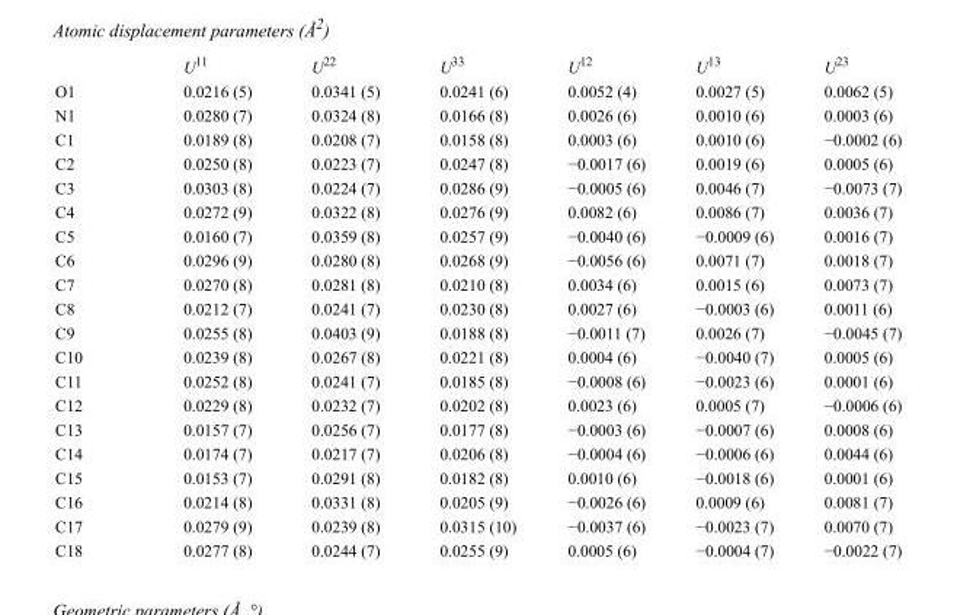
<table><thead><tr><td></td><td>U<sup>11</sup></td><td>U<sup>22</sup></td><td>U<sup>33</sup></td><td>U<sup>12</sup></td><td>U<sup>13</sup></td><td>U<sup>23</sup></td></tr></thead><tbody><tr><td>O1</td><td>0.0216 (5)</td><td>0.0341 (5)</td><td>0.0241 (6)</td><td>0.0052 (4)</td><td>0.0027 (5)</td><td>0.0062 (5)</td></tr><tr><td>N1</td><td>0.0280 (7)</td><td>0.0324 (8)</td><td>0.0166 (8)</td><td>0.0026 (6)</td><td>0.0010 (6)</td><td>0.0003 (6)</td></tr><tr><td>C1</td><td>0.0189 (8)</td><td>0.0208 (7)</td><td>0.0158 (8)</td><td>0.0003 (6)</td><td>0.0010 (6)</td><td>−0.0002 (6)</td></tr><tr><td>C2</td><td>0.0250 (8)</td><td>0.0223 (7)</td><td>0.0247 (8)</td><td>−0.0017 (6)</td><td>0.0019 (6)</td><td>0.0005 (6)</td></tr><tr><td>C3</td><td>0.0303 (8)</td><td>0.0224 (7)</td><td>0.0286 (9)</td><td>−0.0005 (6)</td><td>0.0046 (7)</td><td>−0.0073 (7)</td></tr><tr><td>C4</td><td>0.0272 (9)</td><td>0.0322 (8)</td><td>0.0276 (9)</td><td>0.0082 (6)</td><td>0.0086 (7)</td><td>0.0036 (7)</td></tr><tr><td>C5</td><td>0.0160 (7)</td><td>0.0359 (8)</td><td>0.0257 (9)</td><td>−0.0040 (6)</td><td>−0.0009 (6)</td><td>0.0016 (7)</td></tr><tr><td>C6</td><td>0.0296 (9)</td><td>0.0280 (8)</td><td>0.0268 (9)</td><td>−0.0056 (6)</td><td>0.0071 (7)</td><td>0.0018 (7)</td></tr><tr><td>C7</td><td>0.0270 (8)</td><td>0.0281 (8)</td><td>0.0210 (8)</td><td>0.0034 (6)</td><td>0.0015 (6)</td><td>0.0073 (7)</td></tr><tr><td>C8</td><td>0.0212 (7)</td><td>0.0241 (7)</td><td>0.0230 (8)</td><td>0.0027 (6)</td><td>−0.0003 (6)</td><td>0.0011 (6)</td></tr><tr><td>C9</td><td>0.0255 (8)</td><td>0.0403 (9)</td><td>0.0188 (8)</td><td>−0.0011 (7)</td><td>0.0026 (7)</td><td>−0.0045 (7)</td></tr><tr><td>C10</td><td>0.0239 (8)</td><td>0.0267 (8)</td><td>0.0221 (8)</td><td>0.0004 (6)</td><td>−0.0040 (7)</td><td>0.0005 (6)</td></tr><tr><td>C11</td><td>0.0252 (8)</td><td>0.0241 (7)</td><td>0.0185 (8)</td><td>−0.0008 (6)</td><td>−0.0023 (6)</td><td>0.0001 (6)</td></tr><tr><td>C12</td><td>0.0229 (8)</td><td>0.0232 (7)</td><td>0.0202 (8)</td><td>0.0023 (6)</td><td>0.0005 (7)</td><td>−0.0006 (6)</td></tr><tr><td>C13</td><td>0.0157 (7)</td><td>0.0256 (7)</td><td>0.0177 (8)</td><td>−0.0003 (6)</td><td>−0.0007 (6)</td><td>0.0008 (6)</td></tr><tr><td>C14</td><td>0.0174 (7)</td><td>0.0217 (7)</td><td>0.0206 (8)</td><td>−0.0004 (6)</td><td>−0.0006 (6)</td><td>0.0044 (6)</td></tr><tr><td>C15</td><td>0.0153 (7)</td><td>0.0291 (8)</td><td>0.0182 (8)</td><td>0.0010 (6)</td><td>−0.0018 (6)</td><td>0.0001 (6)</td></tr><tr><td>C16</td><td>0.0214 (8)</td><td>0.0331 (8)</td><td>0.0205 (9)</td><td>−0.0026 (6)</td><td>0.0009 (6)</td><td>0.0081 (7)</td></tr><tr><td>C17</td><td>0.0279 (9)</td><td>0.0239 (8)</td><td>0.0315 (10)</td><td>−0.0037 (6)</td><td>−0.0023 (7)</td><td>0.0070 (7)</td></tr><tr><td>C18</td><td>0.0277 (8)</td><td>0.0244 (7)</td><td>0.0255 (9)</td><td>0.0005 (6)</td><td>−0.0004 (7)</td><td>−0.0022 (7)</td></tr></tbody></table>